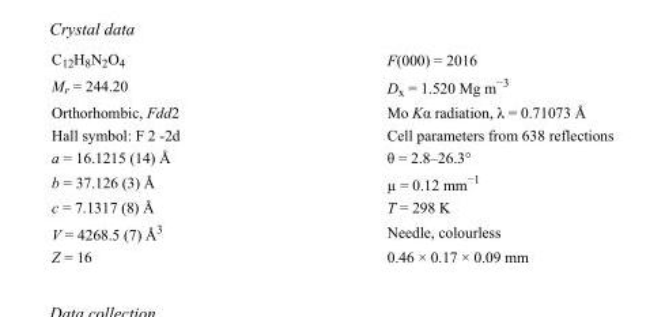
<table><tbody><tr><td>C<sub>12</sub>H<sub>8</sub>N<sub>2</sub>O<sub>4</sub></td><td>F(000) = 2016</td></tr><tr><td>M<sub>r</sub> = 244.20</td><td>D<sub>x</sub> = 1.520 Mg m<sup>−3</sup></td></tr><tr><td>Orthorhombic, Fdd2</td><td>Mo Kα radiation, λ = 0.71073 Å</td></tr><tr><td>Hall symbol: F 2 -2d</td><td>Cell parameters from 638 reflections</td></tr><tr><td>a = 16.1215 (14) Å</td><td>θ = 2.8–26.3°</td></tr><tr><td>b = 37.126 (3) Å</td><td>µ = 0.12 mm<sup>−1</sup></td></tr><tr><td>c = 7.1317 (8) Å</td><td>T = 298 K</td></tr><tr><td>V = 4268.5 (7) Å<sup>3</sup></td><td>Needle, colourless</td></tr><tr><td>Z = 16</td><td>0.46 × 0.17 × 0.09 mm</td></tr></tbody></table>